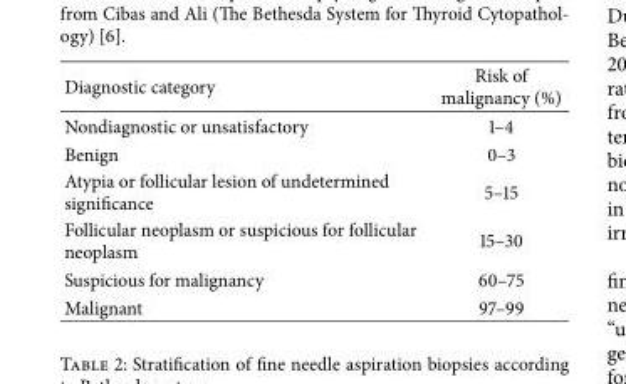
<table><thead><tr><td>Diagnostic category</td><td>Risk of malignancy (%)</td></tr></thead><tbody><tr><td>Nondiagnostic or unsatisfactory</td><td>1–4</td></tr><tr><td>Benign</td><td>0–3</td></tr><tr><td>Atypia or follicular lesion of undetermined significance</td><td>5–15</td></tr><tr><td>Follicular neoplasm or suspicious for follicular neoplasm</td><td>15–30</td></tr><tr><td>Suspicious for malignancy</td><td>60–75</td></tr><tr><td>Malignant</td><td>97–99</td></tr></tbody></table>